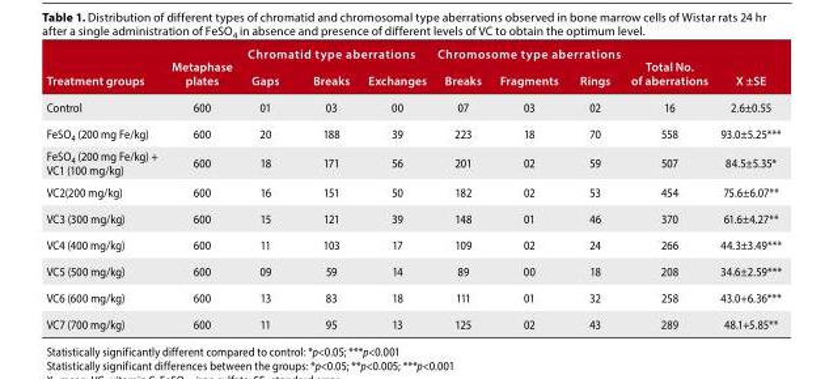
<table><thead><tr><td rowspan="2">Treatment groups</td><td rowspan="2">Metaphase plates</td><td colspan="3">Chromatid type aberrations</td><td colspan="3">Chromosome type aberrations</td><td rowspan="2">Total No. of aberrations</td><td rowspan="2">X ±SE</td></tr><tr><td>Gaps</td><td>Breaks</td><td>Exchanges</td><td>Breaks</td><td>Fragments</td><td>Rings</td></tr></thead><tbody><tr><td>Control</td><td>600</td><td>01</td><td>03</td><td>00</td><td>07</td><td>03</td><td>02</td><td>16</td><td>2.6±0.55</td></tr><tr><td>FeSO<sub>4</sub> (200 mg Fe/kg)</td><td>600</td><td>20</td><td>188</td><td>39</td><td>223</td><td>18</td><td>70</td><td>558</td><td>93.0±5.25***</td></tr><tr><td>FeSO<sub>4</sub> (200 mg Fe/kg) + VC1 (100 mg/kg)</td><td>600</td><td>18</td><td>171</td><td>56</td><td>201</td><td>02</td><td>59</td><td>507</td><td>84.5±5.35*</td></tr><tr><td>VC2(200 mg/kg)</td><td>600</td><td>16</td><td>151</td><td>50</td><td>182</td><td>02</td><td>53</td><td>454</td><td>75.6±6.07**</td></tr><tr><td>VC3 (300 mg/kg)</td><td>600</td><td>15</td><td>121</td><td>39</td><td>148</td><td>01</td><td>46</td><td>370</td><td>61.6±4.27**</td></tr><tr><td>VC4 (400 mg/kg)</td><td>600</td><td>11</td><td>103</td><td>17</td><td>109</td><td>02</td><td>24</td><td>266</td><td>44.3±3.49***</td></tr><tr><td>VC5 (500 mg/kg)</td><td>600</td><td>09</td><td>59</td><td>14</td><td>89</td><td>00</td><td>18</td><td>208</td><td>34.6±2.59***</td></tr><tr><td>VC6 (600 mg/kg)</td><td>600</td><td>13</td><td>83</td><td>18</td><td>111</td><td>01</td><td>32</td><td>258</td><td>43.0+6.36***</td></tr><tr><td>VC7 (700 mg/kg)</td><td>600</td><td>11</td><td>95</td><td>13</td><td>125</td><td>02</td><td>43</td><td>289</td><td>48.1+5.85**</td></tr></tbody></table>